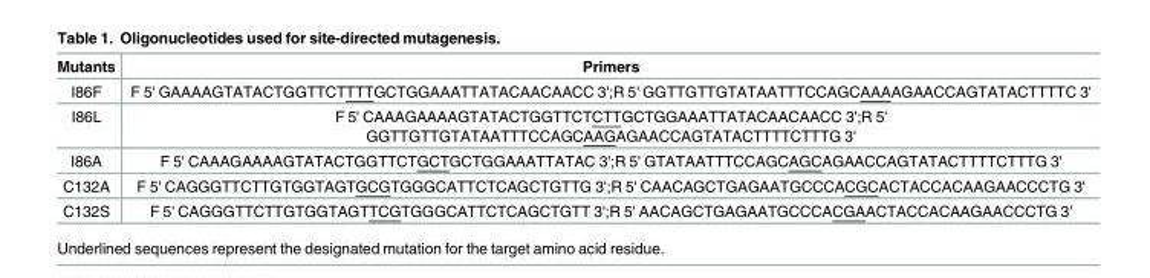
<table><thead><tr><td>Mutants</td><td>Primers</td></tr></thead><tbody><tr><td>I86F</td><td>F 5&#x27; GAAAAGTATACTGGTTCTTTTGCTGGAAATTATACAACAACC 3&#x27;;R 5&#x27; GGTTGTTGTATAATTTCCAGCAAAAGAACCAGTATACTTTTC 3&#x27;</td></tr><tr><td>I86L</td><td>F 5&#x27; CAAAGAAAAGTATACTGGTTCTCTTGCTGGAAATTATACAACAACC 3&#x27;;R 5&#x27; GGTTGTTGTATAATTTCCAGCAAGAGAACCAGTATACTTTTCTTTG 3&#x27;</td></tr><tr><td>I86A</td><td>F 5&#x27; CAAAGAAAAGTATACTGGTTCTGCTGCTGGAAATTATAC 3&#x27;;R 5&#x27; GTATAATTTCCAGCAGCAGAACCAGTATACTTTTCTTTG 3&#x27;</td></tr><tr><td>C132A</td><td>F 5&#x27; CAGGGTTCTTGTGGTAGTGCGTGGGCATTCTCAGCTGTTG 3&#x27;;R 5&#x27; CAACAGCTGAGAATGCCCACGCACTACCACAAGAACCCTG 3&#x27;</td></tr><tr><td>C132S</td><td>F 5&#x27; CAGGGTTCTTGTGGTAGTTCGTGGGCATTCTCAGCTGTT 3&#x27;;R 5&#x27; AACAGCTGAGAATGCCCACGAACTACCACAAGAACCCTG 3&#x27;</td></tr></tbody></table>